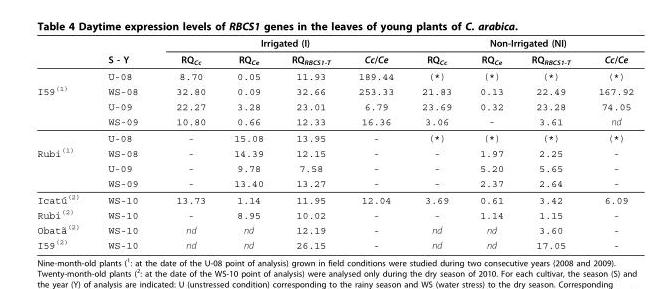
<table><thead><tr><td rowspan="2"></td><td rowspan="2">S - Y</td><td colspan="4">Irrigated (I)</td><td colspan="4">Non-Irrigated (NI)</td></tr><tr><td>RQ<sub>Cc</sub></td><td>RQ<sub>Ce</sub></td><td>RQ<sub>RBCS1-T</sub></td><td>Cc/Ce</td><td>RQ<sub>Cc</sub></td><td>RQ<sub>Ce</sub></td><td>RQ<sub>RBCS1-T</sub></td><td>Cc/Ce</td></tr></thead><tbody><tr><td></td><td>U-08</td><td>8.70</td><td>0.05</td><td>11.93</td><td>189.44</td><td>(*)</td><td>(*)</td><td>(*)</td><td>(*)</td></tr><tr><td rowspan="4">I59<sup>(1)</sup></td><td>WS-08</td><td>32.80</td><td>0.09</td><td>32.66</td><td>253.33</td><td>21.83</td><td>0.13</td><td>22.49</td><td>167.92</td></tr><tr><td>U-09</td><td>22.27</td><td>3.28</td><td>23.01</td><td>6.79</td><td>23.69</td><td>0.32</td><td>23.28</td><td>74.05</td></tr><tr><td>WS-09</td><td>10.80</td><td>0.66</td><td>12.33</td><td>16.36</td><td>3.06</td><td>-</td><td>3.61</td><td>nd</td></tr><tr><td>U-08</td><td>-</td><td>15.08</td><td>13.95</td><td>-</td><td>(*)</td><td>(*)</td><td>(*)</td><td>(*)</td></tr><tr><td rowspan="3">Rubi<sup>(1)</sup></td><td>WS-08</td><td>-</td><td>14.39</td><td>12.15</td><td>-</td><td>-</td><td>1.97</td><td>2.25</td><td>-</td></tr><tr><td>U-09</td><td>-</td><td>9.78</td><td>7.58</td><td>-</td><td>-</td><td>5.20</td><td>5.65</td><td>-</td></tr><tr><td>WS-09</td><td>-</td><td>13.40</td><td>13.27</td><td>-</td><td>-</td><td>2.37</td><td>2.64</td><td>-</td></tr><tr><td>Icatú<sup>(2)</sup></td><td>WS-10</td><td>13.73</td><td>1.14</td><td>11.95</td><td>12.04</td><td>3.69</td><td>0.61</td><td>3.42</td><td>6.09</td></tr><tr><td>Rubi<sup>(2)</sup></td><td>WS-10</td><td>-</td><td>8.95</td><td>10.02</td><td>-</td><td>-</td><td>1.14</td><td>1.15</td><td>-</td></tr><tr><td>Obatã<sup>(2)</sup></td><td>WS-10</td><td>nd</td><td>nd</td><td>12.19</td><td>-</td><td>nd</td><td>nd</td><td>3.60</td><td>-</td></tr><tr><td>I59<sup>(2)</sup></td><td>WS-10</td><td>nd</td><td>nd</td><td>26.15</td><td>-</td><td>nd</td><td>nd</td><td>17.05</td><td>-</td></tr></tbody></table>